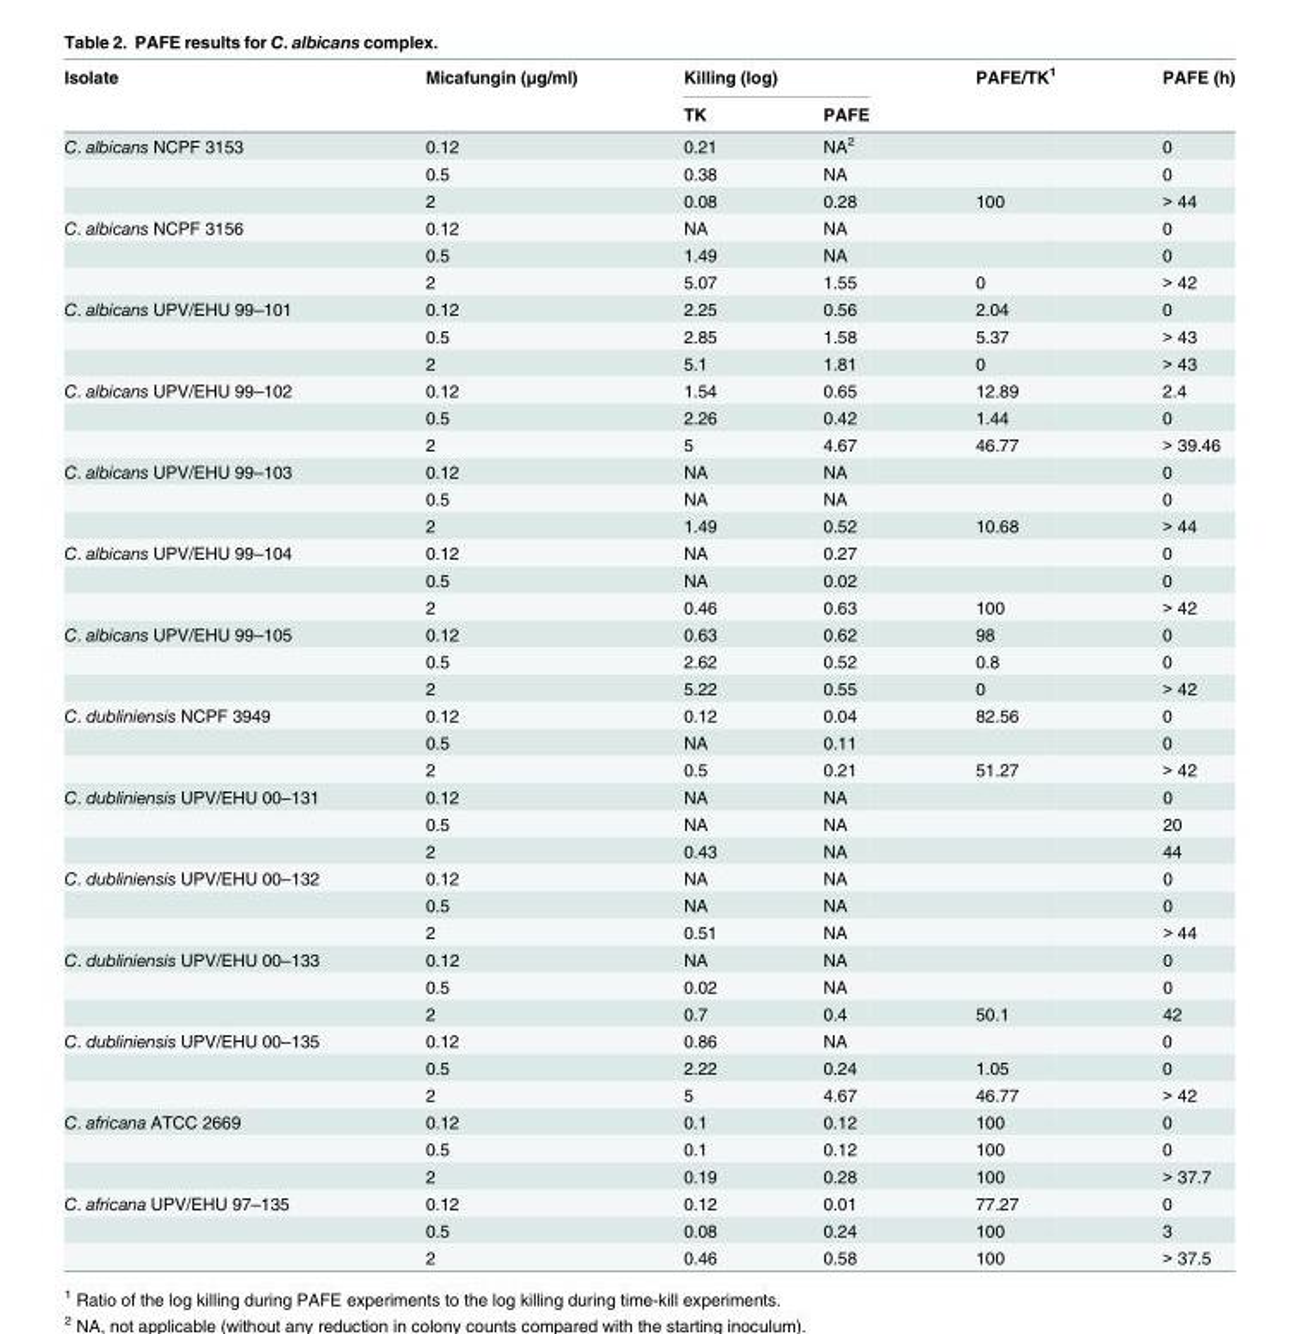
<table><thead><tr><td rowspan="2">Isolate</td><td rowspan="2">Micafungin (μg/ml)</td><td colspan="2">Killing (log)</td><td rowspan="2">PAFE/TK<sup>1</sup></td><td rowspan="2">PAFE (h)</td></tr><tr><td>TK</td><td>PAFE</td></tr></thead><tbody><tr><td rowspan="3">C. albicans NCPF 3153</td><td>0.12</td><td>0.21</td><td>NA<sup>2</sup></td><td></td><td>0</td></tr><tr><td>0.5</td><td>0.38</td><td>NA</td><td></td><td>0</td></tr><tr><td>2</td><td>0.08</td><td>0.28</td><td>100</td><td>&gt; 44</td></tr><tr><td rowspan="3">C. albicans NCPF 3156</td><td>0.12</td><td>NA</td><td>NA</td><td></td><td>0</td></tr><tr><td>0.5</td><td>1.49</td><td>NA</td><td></td><td>0</td></tr><tr><td>2</td><td>5.07</td><td>1.55</td><td>0</td><td>&gt; 42</td></tr><tr><td rowspan="3">C. albicans UPV/EHU 99–101</td><td>0.12</td><td>2.25</td><td>0.56</td><td>2.04</td><td>0</td></tr><tr><td>0.5</td><td>2.85</td><td>1.58</td><td>5.37</td><td>&gt; 43</td></tr><tr><td>2</td><td>5.1</td><td>1.81</td><td>0</td><td>&gt; 43</td></tr><tr><td rowspan="3">C. albicans UPV/EHU 99–102</td><td>0.12</td><td>1.54</td><td>0.65</td><td>12.89</td><td>2.4</td></tr><tr><td>0.5</td><td>2.26</td><td>0.42</td><td>1.44</td><td>0</td></tr><tr><td>2</td><td>5</td><td>4.67</td><td>46.77</td><td>&gt; 39.46</td></tr><tr><td rowspan="3">C. albicans UPV/EHU 99–103</td><td>0.12</td><td>NA</td><td>NA</td><td></td><td>0</td></tr><tr><td>0.5</td><td>NA</td><td>NA</td><td></td><td>0</td></tr><tr><td>2</td><td>1.49</td><td>0.52</td><td>10.68</td><td>&gt; 44</td></tr><tr><td rowspan="3">C. albicans UPV/EHU 99–104</td><td>0.12</td><td>NA</td><td>0.27</td><td></td><td>0</td></tr><tr><td>0.5</td><td>NA</td><td>0.02</td><td></td><td>0</td></tr><tr><td>2</td><td>0.46</td><td>0.63</td><td>100</td><td>&gt; 42</td></tr><tr><td rowspan="3">C. albicans UPV/EHU 99–105</td><td>0.12</td><td>0.63</td><td>0.62</td><td>98</td><td>0</td></tr><tr><td>0.5</td><td>2.62</td><td>0.52</td><td>0.8</td><td>0</td></tr><tr><td>2</td><td>5.22</td><td>0.55</td><td>0</td><td>&gt; 42</td></tr><tr><td rowspan="3">C. dubliniensis NCPF 3949</td><td>0.12</td><td>0.12</td><td>0.04</td><td>82.56</td><td>0</td></tr><tr><td>0.5</td><td>NA</td><td>0.11</td><td></td><td>0</td></tr><tr><td>2</td><td>0.5</td><td>0.21</td><td>51.27</td><td>&gt; 42</td></tr><tr><td rowspan="3">C. dubliniensis UPV/EHU 00–131</td><td>0.12</td><td>NA</td><td>NA</td><td></td><td>0</td></tr><tr><td>0.5</td><td>NA</td><td>NA</td><td></td><td>20</td></tr><tr><td>2</td><td>0.43</td><td>NA</td><td></td><td>44</td></tr><tr><td rowspan="3">C. dubliniensis UPV/EHU 00–132</td><td>0.12</td><td>NA</td><td>NA</td><td></td><td>0</td></tr><tr><td>0.5</td><td>NA</td><td>NA</td><td></td><td>0</td></tr><tr><td>2</td><td>0.51</td><td>NA</td><td></td><td>&gt; 44</td></tr><tr><td rowspan="3">C. dubliniensis UPV/EHU 00–133</td><td>0.12</td><td>NA</td><td>NA</td><td></td><td>0</td></tr><tr><td>0.5</td><td>0.02</td><td>NA</td><td></td><td>0</td></tr><tr><td>2</td><td>0.7</td><td>0.4</td><td>50.1</td><td>42</td></tr><tr><td rowspan="3">C. dubliniensis UPV/EHU 00–135</td><td>0.12</td><td>0.86</td><td>NA</td><td></td><td>0</td></tr><tr><td>0.5</td><td>2.22</td><td>0.24</td><td>1.05</td><td>0</td></tr><tr><td>2</td><td>5</td><td>4.67</td><td>46.77</td><td>&gt; 42</td></tr><tr><td rowspan="3">C. africana ATCC 2669</td><td>0.12</td><td>0.1</td><td>0.12</td><td>100</td><td>0</td></tr><tr><td>0.5</td><td>0.1</td><td>0.12</td><td>100</td><td>0</td></tr><tr><td>2</td><td>0.19</td><td>0.28</td><td>100</td><td>&gt; 37.7</td></tr><tr><td rowspan="3">C. africana UPV/EHU 97–135</td><td>0.12</td><td>0.12</td><td>0.01</td><td>77.27</td><td>0</td></tr><tr><td>0.5</td><td>0.08</td><td>0.24</td><td>100</td><td>3</td></tr><tr><td>2</td><td>0.46</td><td>0.58</td><td>100</td><td>&gt; 37.5</td></tr></tbody></table>